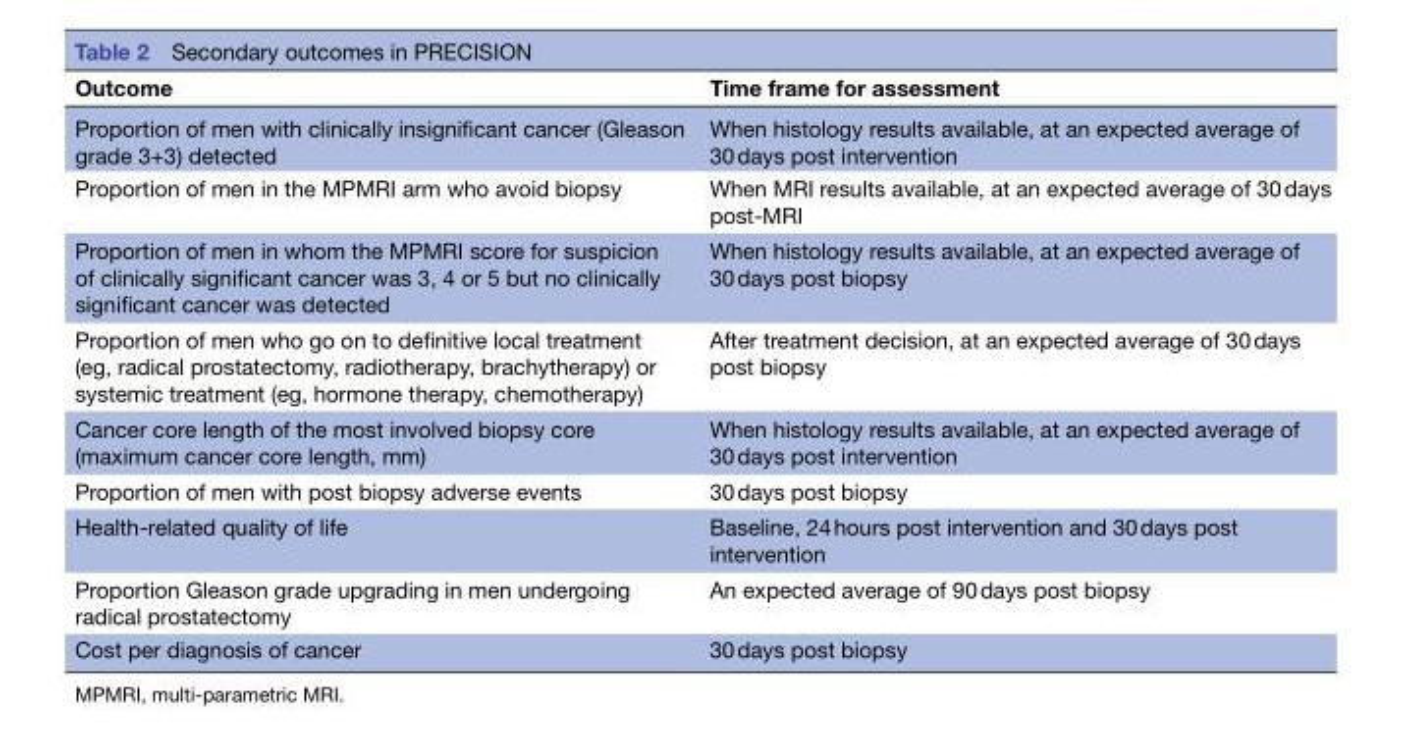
<table><thead><tr><td>Outcome</td><td>Time frame for assessment</td></tr></thead><tbody><tr><td>Proportion of men with clinically insignificant cancer (Gleason grade 3+3) detected</td><td>When histology results available, at an expected average of 30 days post intervention</td></tr><tr><td>Proportion of men in the MPMRI arm who avoid biopsy</td><td>When MRI results available, at an expected average of 30 days post-MRI</td></tr><tr><td>Proportion of men in whom the MPMRI score for suspicion of clinically significant cancer was 3, 4 or 5 but no clinically significant cancer was detected</td><td>When histology results available, at an expected average of 30 days post biopsy</td></tr><tr><td>Proportion of men who go on to definitive local treatment (eg, radical prostatectomy, radiotherapy, brachytherapy) or systemic treatment (eg, hormone therapy, chemotherapy)</td><td>After treatment decision, at an expected average of 30 days post biopsy</td></tr><tr><td>Cancer core length of the most involved biopsy core (maximum cancer core length, mm)</td><td>When histology results available, at an expected average of 30 days post intervention</td></tr><tr><td>Proportion of men with post biopsy adverse events</td><td>30 days post biopsy</td></tr><tr><td>Health-related quality of life</td><td>Baseline, 24 hours post intervention and 30 days post intervention</td></tr><tr><td>Proportion Gleason grade upgrading in men undergoing radical prostatectomy</td><td>An expected average of 90 days post biopsy</td></tr><tr><td>Cost per diagnosis of cancer</td><td>30 days post biopsy</td></tr></tbody></table>